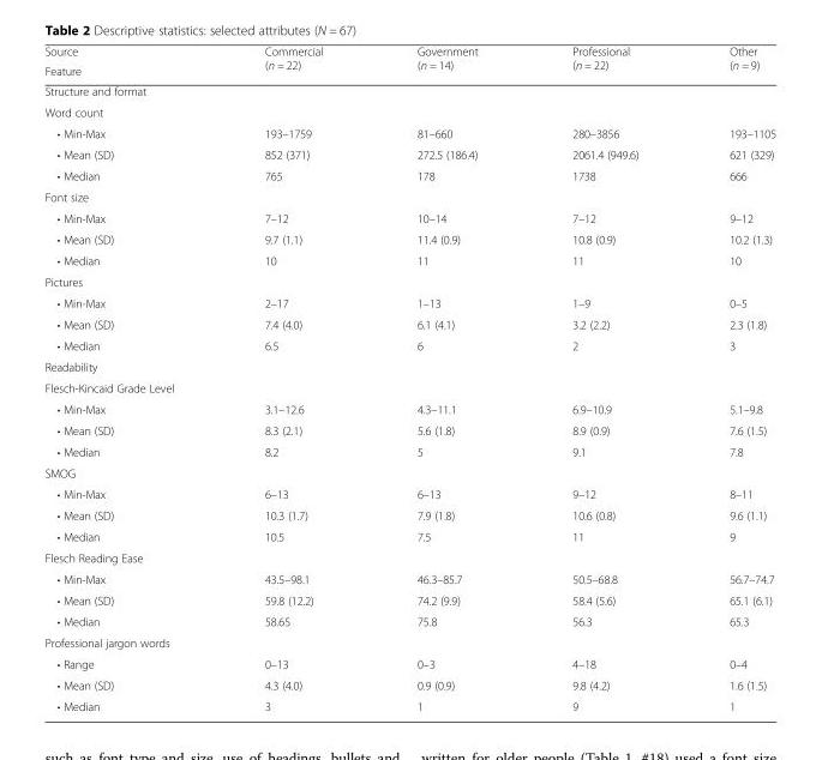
<table><thead><tr><td rowspan="2">Source Feature</td><td rowspan="2">Commercial (n = 22)</td><td rowspan="2">Government (n = 14)</td><td rowspan="2">Professional (n = 22)</td><td rowspan="2">Other (n = 9)</td></tr><tr></tr></thead><tbody><tr><td colspan="5">Structure and format</td></tr><tr><td colspan="5">Word count</td></tr><tr><td>• Min-Max</td><td>193–1759</td><td>81–660</td><td>280–3856</td><td>193–1105</td></tr><tr><td>• Mean (SD)</td><td>852 (371)</td><td>272.5 (186.4)</td><td>2061.4 (949.6)</td><td>621 (329)</td></tr><tr><td>• Median</td><td>765</td><td>178</td><td>1738</td><td>666</td></tr><tr><td colspan="5">Font size</td></tr><tr><td>• Min-Max</td><td>7–12</td><td>10–14</td><td>7–12</td><td>9–12</td></tr><tr><td>• Mean (SD)</td><td>9.7 (1.1)</td><td>11.4 (0.9)</td><td>10.8 (0.9)</td><td>10.2 (1.3)</td></tr><tr><td>• Median</td><td>10</td><td>11</td><td>11</td><td>10</td></tr><tr><td colspan="5">Pictures</td></tr><tr><td>• Min-Max</td><td>2–17</td><td>1–13</td><td>1–9</td><td>0–5</td></tr><tr><td>• Mean (SD)</td><td>7.4 (4.0)</td><td>6.1 (4.1)</td><td>3.2 (2.2)</td><td>2.3 (1.8)</td></tr><tr><td>• Median</td><td>6.5</td><td>6</td><td>2</td><td>3</td></tr><tr><td colspan="5">Readability</td></tr><tr><td colspan="5">Flesch-Kincaid Grade Level</td></tr><tr><td>• Min-Max</td><td>3.1–12.6</td><td>4.3–11.1</td><td>6.9–10.9</td><td>5.1–9.8</td></tr><tr><td>• Mean (SD)</td><td>8.3 (2.1)</td><td>5.6 (1.8)</td><td>8.9 (0.9)</td><td>7.6 (1.5)</td></tr><tr><td>• Median</td><td>8.2</td><td>5</td><td>9.1</td><td>7.8</td></tr><tr><td colspan="5">SMOG</td></tr><tr><td>• Min-Max</td><td>6–13</td><td>6–13</td><td>9–12</td><td>8–11</td></tr><tr><td>• Mean (SD)</td><td>10.3 (1.7)</td><td>7.9 (1.8)</td><td>10.6 (0.8)</td><td>9.6 (1.1)</td></tr><tr><td>• Median</td><td>10.5</td><td>7.5</td><td>11</td><td>9</td></tr><tr><td colspan="5">Flesch Reading Ease</td></tr><tr><td>• Min-Max</td><td>43.5–98.1</td><td>46.3–85.7</td><td>50.5–68.8</td><td>56.7–74.7</td></tr><tr><td>• Mean (SD)</td><td>59.8 (12.2)</td><td>74.2 (9.9)</td><td>58.4 (5.6)</td><td>65.1 (6.1)</td></tr><tr><td>• Median</td><td>58.65</td><td>75.8</td><td>56.3</td><td>65.3</td></tr><tr><td colspan="5">Professional jargon words</td></tr><tr><td>• Range</td><td>0–13</td><td>0–3</td><td>4–18</td><td>0–4</td></tr><tr><td>• Mean (SD)</td><td>4.3 (4.0)</td><td>0.9 (0.9)</td><td>9.8 (4.2)</td><td>1.6 (1.5)</td></tr><tr><td>• Median</td><td>3</td><td>1</td><td>9</td><td>1</td></tr></tbody></table>